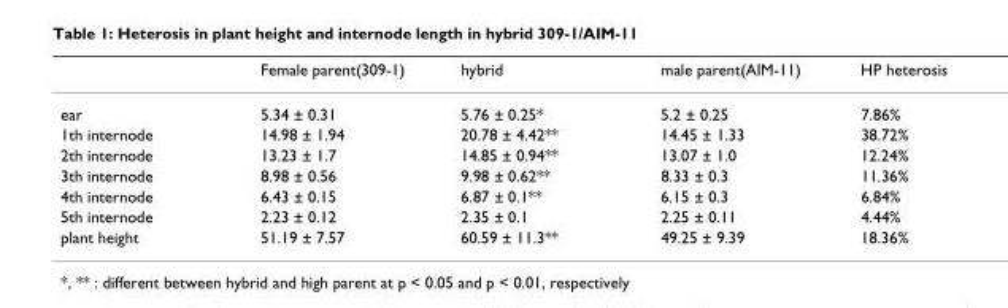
<table><thead><tr><td></td><td>Female parent(309-1)</td><td>hybrid</td><td>male parent(AIM-11)</td><td>HP heterosis</td></tr></thead><tbody><tr><td>ear</td><td>5.34 ± 0.31</td><td>5.76 ± 0.25*</td><td>5.2 ± 0.25</td><td>7.86%</td></tr><tr><td>1th internode</td><td>14.98 ± 1.94</td><td>20.78 ± 4.42**</td><td>14.45 ± 1.33</td><td>38.72%</td></tr><tr><td>2th internode</td><td>13.23 ± 1.7</td><td>14.85 ± 0.94**</td><td>13.07 ± 1.0</td><td>12.24%</td></tr><tr><td>3th internode</td><td>8.98 ± 0.56</td><td>9.98 ± 0.62**</td><td>8.33 ± 0.3</td><td>11.36%</td></tr><tr><td>4th internode</td><td>6.43 ± 0.15</td><td>6.87 ± 0.1**</td><td>6.15 ± 0.3</td><td>6.84%</td></tr><tr><td>5th internode</td><td>2.23 ± 0.12</td><td>2.35 ± 0.1</td><td>2.25 ± 0.11</td><td>4.44%</td></tr><tr><td>plant height</td><td>51.19 ± 7.57</td><td>60.59 ± 11.3**</td><td>49.25 ± 9.39</td><td>18.36%</td></tr></tbody></table>